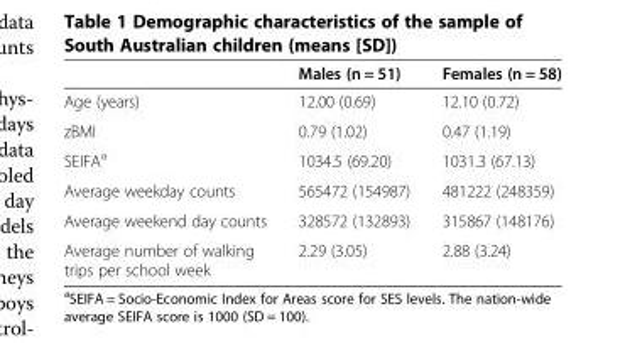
<table><thead><tr><td></td><td>Males (n = 51)</td><td>Females (n = 58)</td></tr></thead><tbody><tr><td>Age (years)</td><td>12.00 (0.69)</td><td>12.10 (0.72)</td></tr><tr><td>zBMI</td><td>0.79 (1.02)</td><td>0.47 (1.19)</td></tr><tr><td>SEIFA<sup>a</sup></td><td>1034.5 (69.20)</td><td>1031.3 (67.13)</td></tr><tr><td>Average weekday counts</td><td>565472 (154987)</td><td>481222 (248359)</td></tr><tr><td>Average weekend day counts</td><td>328572 (132893)</td><td>315867 (148176)</td></tr><tr><td>Average number of walking trips per school week</td><td>2.29 (3.05)</td><td>2.88 (3.24)</td></tr></tbody></table>